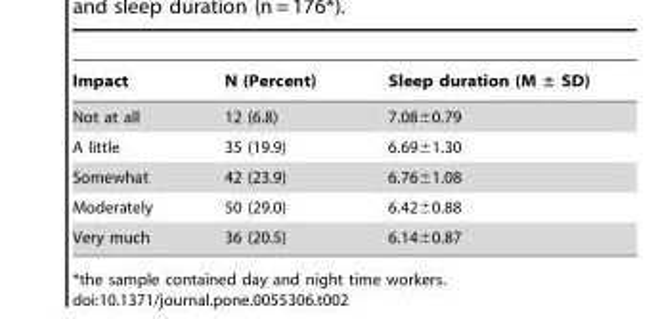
<table><thead><tr><td>Impact</td><td>N (Percent)</td><td>Sleep duration (M ± SD)</td></tr></thead><tbody><tr><td>Not at all</td><td>12 (6.8)</td><td>7.08±0.79</td></tr><tr><td>A little</td><td>35 (19.9)</td><td>6.69±1.30</td></tr><tr><td>Somewhat</td><td>42 (23.9)</td><td>6.76±1.08</td></tr><tr><td>Moderately</td><td>50 (29.0)</td><td>6.42±0.88</td></tr><tr><td>Very much</td><td>36 (20.5)</td><td>6.14±0.87</td></tr></tbody></table>